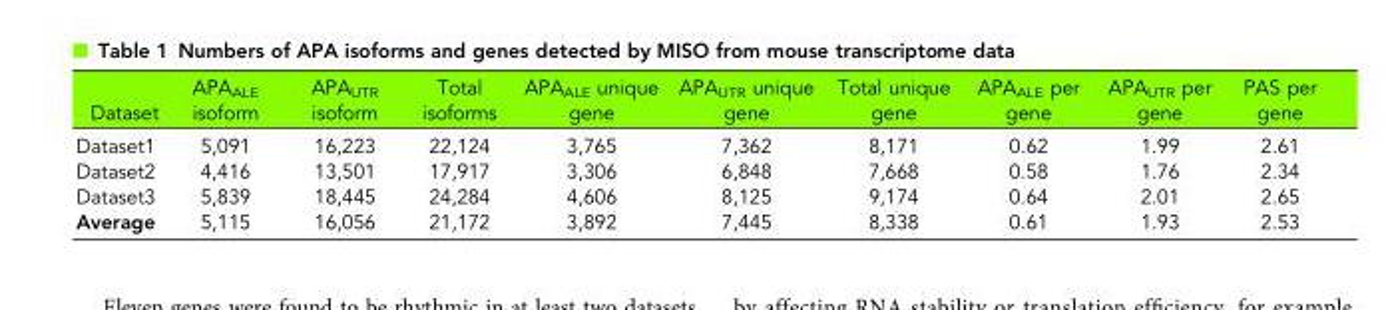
<table><thead><tr><td>Dataset</td><td>APA<sub>ALE</sub> isoform</td><td>APA<sub>UTR</sub> isoform</td><td>Total isoforms</td><td>APA<sub>ALE</sub> unique gene</td><td>APA<sub>UTR</sub> unique gene</td><td>Total unique gene</td><td>APA<sub>ALE</sub> per gene</td><td>APA<sub>UTR</sub> per gene</td><td>PAS per gene</td></tr></thead><tbody><tr><td>Dataset1</td><td>5,091</td><td>16,223</td><td>22,124</td><td>3,765</td><td>7,362</td><td>8,171</td><td>0.62</td><td>1.99</td><td>2.61</td></tr><tr><td>Dataset2</td><td>4,416</td><td>13,501</td><td>17,917</td><td>3,306</td><td>6,848</td><td>7,668</td><td>0.58</td><td>1.76</td><td>2.34</td></tr><tr><td>Dataset3</td><td>5,839</td><td>18,445</td><td>24,284</td><td>4,606</td><td>8,125</td><td>9,174</td><td>0.64</td><td>2.01</td><td>2.65</td></tr><tr><td>Average</td><td>5,115</td><td>16,056</td><td>21,172</td><td>3,892</td><td>7,445</td><td>8,338</td><td>0.61</td><td>1.93</td><td>2.53</td></tr></tbody></table>